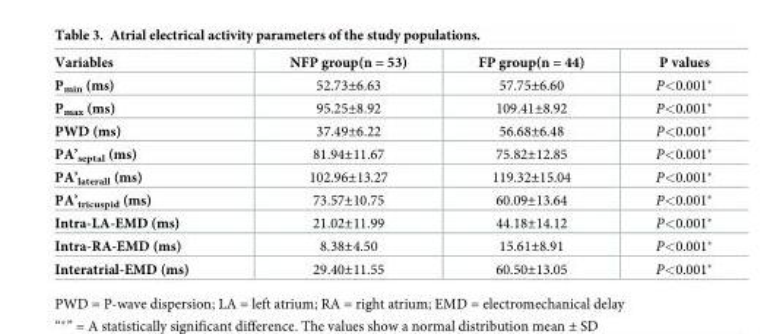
<table><thead><tr><td>Variables</td><td>NFP group(n = 53)</td><td>FP group(n = 44)</td><td>P values</td></tr></thead><tbody><tr><td>P<sub>min</sub> (ms)</td><td>52.73±6.63</td><td>57.75±6.60</td><td>P&lt;0.001*</td></tr><tr><td>P<sub>max</sub> (ms)</td><td>95.25±8.92</td><td>109.41±8.92</td><td>P&lt;0.001*</td></tr><tr><td>PWD (ms)</td><td>37.49±6.22</td><td>56.68±6.48</td><td>P&lt;0.001*</td></tr><tr><td>PA’<sub>septal</sub> (ms)</td><td>81.94±11.67</td><td>75.82±12.85</td><td>P&lt;0.001*</td></tr><tr><td>PA’<sub>laterall</sub> (ms)</td><td>102.96±13.27</td><td>119.32±15.04</td><td>P&lt;0.001*</td></tr><tr><td>PA’<sub>tricuspid</sub> (ms)</td><td>73.57±10.75</td><td>60.09±13.64</td><td>P&lt;0.001*</td></tr><tr><td>Intra-LA-EMD (ms)</td><td>21.02±11.99</td><td>44.18±14.12</td><td>P&lt;0.001*</td></tr><tr><td>Intra-RA-EMD (ms)</td><td>8.38±4.50</td><td>15.61±8.91</td><td>P&lt;0.001*</td></tr><tr><td>Interatrial-EMD (ms)</td><td>29.40±11.55</td><td>60.50±13.05</td><td>P&lt;0.001*</td></tr></tbody></table>